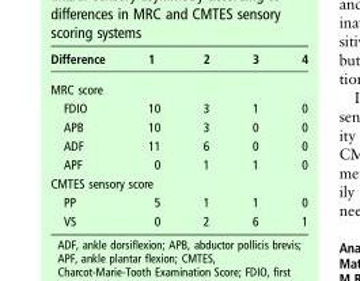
<table><thead><tr><td>Difference</td><td>1</td><td>2</td><td>3</td><td>4</td></tr></thead><tbody><tr><td colspan="5">MRC score</td></tr><tr><td>FDIO</td><td>10</td><td>3</td><td>1</td><td>0</td></tr><tr><td>APB</td><td>10</td><td>3</td><td>0</td><td>0</td></tr><tr><td>ADF</td><td>11</td><td>6</td><td>0</td><td>0</td></tr><tr><td>APF</td><td>0</td><td>1</td><td>1</td><td>0</td></tr><tr><td colspan="5">CMTES sensory score</td></tr><tr><td>PP</td><td>5</td><td>1</td><td>1</td><td>0</td></tr><tr><td>VS</td><td>0</td><td>2</td><td>6</td><td>1</td></tr></tbody></table>